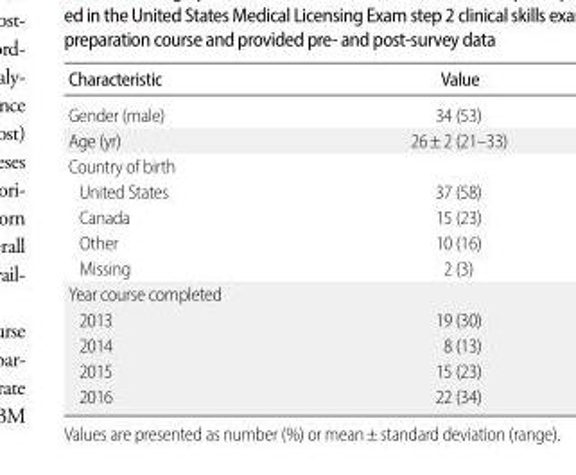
<table><thead><tr><td>Characteristic</td><td>Value</td></tr></thead><tbody><tr><td>Gender (male)</td><td>34 (53)</td></tr><tr><td>Age (yr)</td><td>26±2 (21–33)</td></tr><tr><td colspan="2">Country of birth</td></tr><tr><td>United States</td><td>37 (58)</td></tr><tr><td>Canada</td><td>15 (23)</td></tr><tr><td>Other</td><td>10 (16)</td></tr><tr><td>Missing</td><td>2 (3)</td></tr><tr><td colspan="2">Year course completed</td></tr><tr><td>2013</td><td>19 (30)</td></tr><tr><td>2014</td><td>8 (13)</td></tr><tr><td>2015</td><td>15 (23)</td></tr><tr><td>2016</td><td>22 (34)</td></tr></tbody></table>